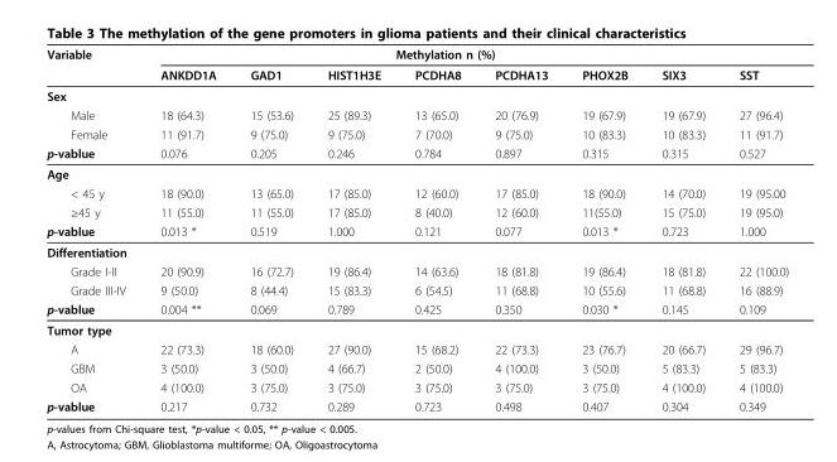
<table><thead><tr><td rowspan="2">Variable</td><td colspan="7">Methylation n (%)</td><td rowspan="2">SST</td></tr><tr><td>ANKDD1A</td><td>GAD1</td><td>HIST1H3E</td><td>PCDHA8</td><td>PCDHA13</td><td>PHOX2B</td><td>SIX3</td></tr></thead><tbody><tr><td colspan="9">Sex</td></tr><tr><td>Male</td><td>18 (64.3)</td><td>15 (53.6)</td><td>25 (89.3)</td><td>13 (65.0)</td><td>20 (76.9)</td><td>19 (67.9)</td><td>19 (67.9)</td><td>27 (96.4)</td></tr><tr><td>Female</td><td>11 (91.7)</td><td>9 (75.0)</td><td>9 (75.0)</td><td>7 (70.0)</td><td>9 (75.0)</td><td>10 (83.3)</td><td>10 (83.3)</td><td>11 (91.7)</td></tr><tr><td>p-vablue</td><td>0.076</td><td>0.205</td><td>0.246</td><td>0.784</td><td>0.897</td><td>0.315</td><td>0.315</td><td>0.527</td></tr><tr><td colspan="9">Age</td></tr><tr><td>&lt; 45 y</td><td>18 (90.0)</td><td>13 (65.0)</td><td>17 (85.0)</td><td>12 (60.0)</td><td>17 (85.0)</td><td>18 (90.0)</td><td>14 (70.0)</td><td>19 (95.00</td></tr><tr><td>≥45 y</td><td>11 (55.0)</td><td>11 (55.0)</td><td>17 (85.0)</td><td>8 (40.0)</td><td>12 (60.0)</td><td>11(55.0)</td><td>15 (75.0)</td><td>19 (95.0)</td></tr><tr><td>p-vablue</td><td>0.013 *</td><td>0.519</td><td>1.000</td><td>0.121</td><td>0.077</td><td>0.013 *</td><td>0.723</td><td>1.000</td></tr><tr><td colspan="9">Differentiation</td></tr><tr><td>Grade I-II</td><td>20 (90.9)</td><td>16 (72.7)</td><td>19 (86.4)</td><td>14 (63.6)</td><td>18 (81.8)</td><td>19 (86.4)</td><td>18 (81.8)</td><td>22 (100.0)</td></tr><tr><td>Grade III-IV</td><td>9 (50.0)</td><td>8 (44.4)</td><td>15 (83.3)</td><td>6 (54.5)</td><td>11 (68.8)</td><td>10 (55.6)</td><td>11 (68.8)</td><td>16 (88.9)</td></tr><tr><td>p-vablue</td><td>0.004 **</td><td>0.069</td><td>0.789</td><td>0.425</td><td>0.350</td><td>0.030 *</td><td>0.145</td><td>0.109</td></tr><tr><td colspan="9">Tumor type</td></tr><tr><td>A</td><td>22 (73.3)</td><td>18 (60.0)</td><td>27 (90.0)</td><td>15 (68.2)</td><td>22 (73.3)</td><td>23 (76.7)</td><td>20 (66.7)</td><td>29 (96.7)</td></tr><tr><td>GBM</td><td>3 (50.0)</td><td>3 (50.0)</td><td>4 (66.7)</td><td>2 (50.0)</td><td>4 (100.0)</td><td>3 (50.0)</td><td>5 (83.3)</td><td>5 (83.3)</td></tr><tr><td>OA</td><td>4 (100.0)</td><td>3 (75.0)</td><td>3 (75.0)</td><td>3 (75.0)</td><td>3 (75.0)</td><td>3 (75.0)</td><td>4 (100.0)</td><td>4 (100.0)</td></tr><tr><td>p-vablue</td><td>0.217</td><td>0.732</td><td>0.289</td><td>0.723</td><td>0.498</td><td>0.407</td><td>0.304</td><td>0.349</td></tr></tbody></table>